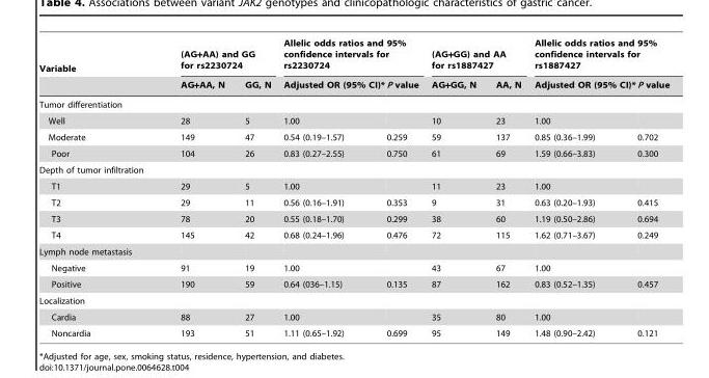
<table><thead><tr><td rowspan="2">Variable</td><td colspan="2">(AG+AA) and GG for rs2230724</td><td colspan="2">Allelic odds ratios and 95% confidence intervals for rs2230724</td><td colspan="2">(AG+GG) and AA for rs1887427</td><td colspan="2">Allelic odds ratios and 95% confidence intervals for rs1887427</td></tr><tr><td>AG+AA, N</td><td>GG, N</td><td>Adjusted OR (95% CI)*</td><td>P value</td><td>AG+GG, N</td><td>AA, N</td><td>Adjusted OR (95% CI)*</td><td>P value</td></tr></thead><tbody><tr><td colspan="9">Tumor differentiation</td></tr><tr><td>Well</td><td>28</td><td>5</td><td>1.00</td><td></td><td>10</td><td>23</td><td>1.00</td><td></td></tr><tr><td>Moderate</td><td>149</td><td>47</td><td>0.54 (0.19–1.57)</td><td>0.259</td><td>59</td><td>137</td><td>0.85 (0.36–1.99)</td><td>0.702</td></tr><tr><td>Poor</td><td>104</td><td>26</td><td>0.83 (0.27–2.55)</td><td>0.750</td><td>61</td><td>69</td><td>1.59 (0.66–3.83)</td><td>0.300</td></tr><tr><td colspan="9">Depth of tumor infiltration</td></tr><tr><td>T1</td><td>29</td><td>5</td><td>1.00</td><td></td><td>11</td><td>23</td><td>1.00</td><td></td></tr><tr><td>T2</td><td>29</td><td>11</td><td>0.56 (0.16–1.91)</td><td>0.353</td><td>9</td><td>31</td><td>0.63 (0.20–1.93)</td><td>0.415</td></tr><tr><td>T3</td><td>78</td><td>20</td><td>0.55 (0.18–1.70)</td><td>0.299</td><td>38</td><td>60</td><td>1.19 (0.50–2.86)</td><td>0.694</td></tr><tr><td>T4</td><td>145</td><td>42</td><td>0.68 (0.24–1.96)</td><td>0.476</td><td>72</td><td>115</td><td>1.62 (0.71–3.67)</td><td>0.249</td></tr><tr><td colspan="9">Lymph node metastasis</td></tr><tr><td>Negative</td><td>91</td><td>19</td><td>1.00</td><td></td><td>43</td><td>67</td><td>1.00</td><td></td></tr><tr><td>Positive</td><td>190</td><td>59</td><td>0.64 (036–1.15)</td><td>0.135</td><td>87</td><td>162</td><td>0.83 (0.52–1.35)</td><td>0.457</td></tr><tr><td colspan="9">Localization</td></tr><tr><td>Cardia</td><td>88</td><td>27</td><td>1.00</td><td></td><td>35</td><td>80</td><td>1.00</td><td></td></tr><tr><td>Noncardia</td><td>193</td><td>51</td><td>1.11 (0.65–1.92)</td><td>0.699</td><td>95</td><td>149</td><td>1.48 (0.90–2.42)</td><td>0.121</td></tr></tbody></table>